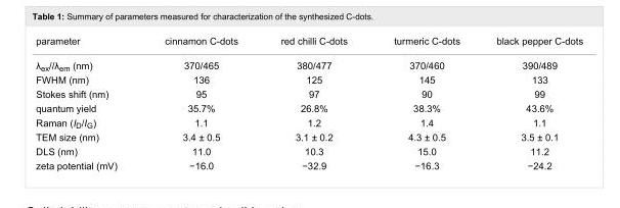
<table><tbody><tr><td>parameter</td><td>cinnamon C-dots</td><td>red chilli C-dots</td><td>turmeric C-dots</td><td>black pepper C-dots</td></tr><tr><td>λ<sub>ex</sub>//λ<sub>em</sub> (nm)</td><td>370/465</td><td>380/477</td><td>370/460</td><td>390/489</td></tr><tr><td>FWHM (nm)</td><td>136</td><td>125</td><td>145</td><td>133</td></tr><tr><td>Stokes shift (nm)</td><td>95</td><td>97</td><td>90</td><td>99</td></tr><tr><td>quantum yield</td><td>35.7%</td><td>26.8%</td><td>38.3%</td><td>43.6%</td></tr><tr><td>Raman (I<sub>D</sub>/I<sub>G</sub>)</td><td>1.1</td><td>1.2</td><td>1.4</td><td>1.1</td></tr><tr><td>TEM size (nm)</td><td>3.4 ± 0.5</td><td>3.1 ± 0.2</td><td>4.3 ± 0.5</td><td>3.5 ± 0.1</td></tr><tr><td>DLS (nm)</td><td>11.0</td><td>10.3</td><td>15.0</td><td>11.2</td></tr><tr><td>zeta potential (mV)</td><td>−16.0</td><td>−32.9</td><td>−16.3</td><td>−24.2</td></tr></tbody></table>